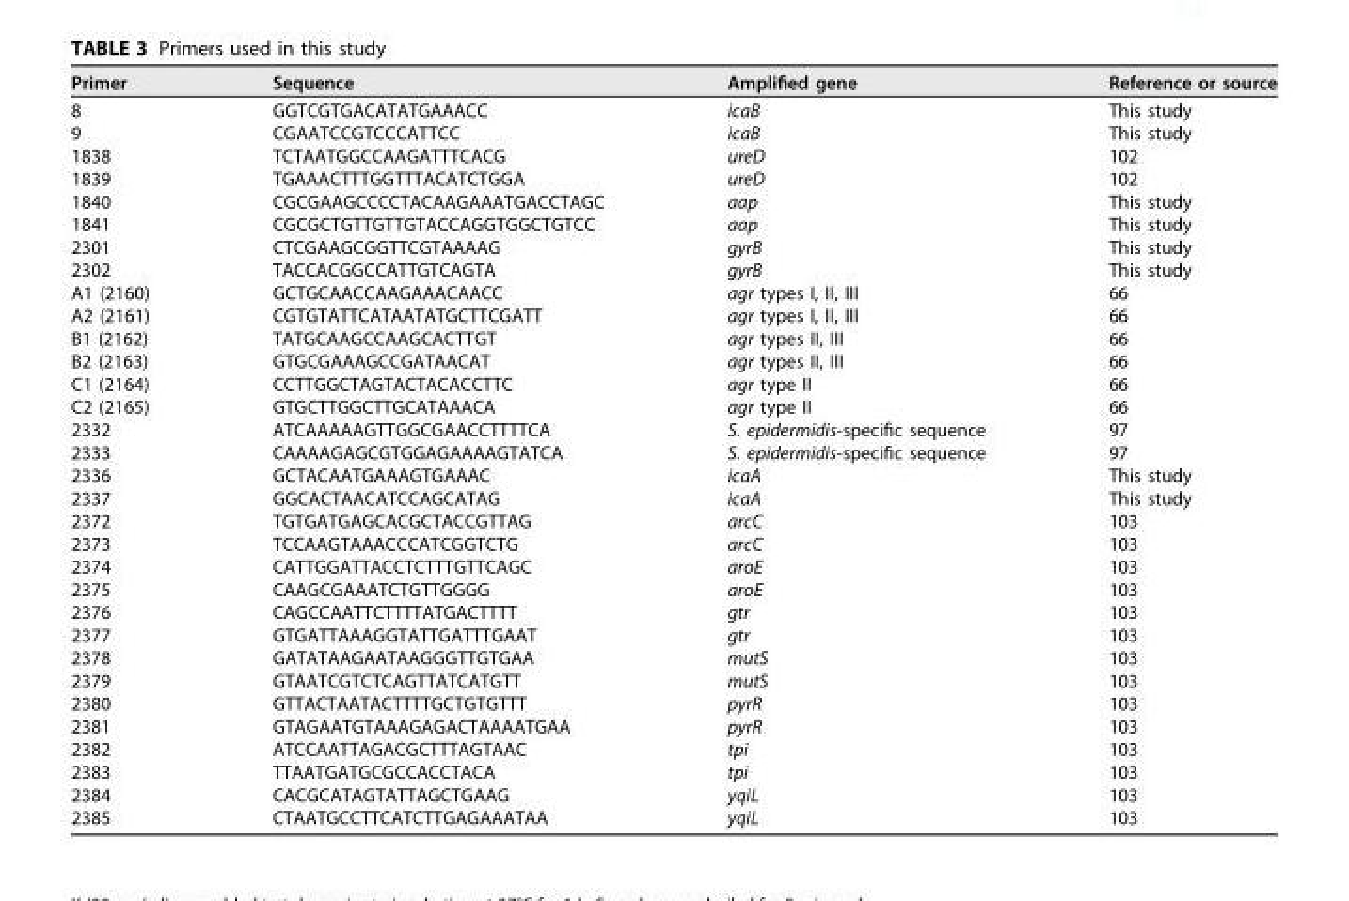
<table><thead><tr><td>Primer</td><td>Sequence</td><td>Amplified gene</td><td>Reference or source</td></tr></thead><tbody><tr><td>8</td><td>GGTCGTGACATATGAAACC</td><td>icaB</td><td>This study</td></tr><tr><td>9</td><td>CGAATCCGTCCCATTCC</td><td>icaB</td><td>This study</td></tr><tr><td>1838</td><td>TCTAATGGCCAAGATTTCACG</td><td>ureD</td><td>102</td></tr><tr><td>1839</td><td>TGAAACTTTGGTTTACATCTGGA</td><td>ureD</td><td>102</td></tr><tr><td>1840</td><td>CGCGAAGCCCCTACAAGAAATGACCTAGC</td><td>aap</td><td>This study</td></tr><tr><td>1841</td><td>CGCGCTGTTGTTGTACCAGGTGGCTGTCC</td><td>aap</td><td>This study</td></tr><tr><td>2301</td><td>CTCGAAGCGGTTCGTAAAAG</td><td>gyrB</td><td>This study</td></tr><tr><td>2302</td><td>TACCACGGCCATTGTCAGTA</td><td>gyrB</td><td>This study</td></tr><tr><td>A1 (2160)</td><td>GCTGCAACCAAGAAACAACC</td><td>agr types I, II, III</td><td>66</td></tr><tr><td>A2 (2161)</td><td>CGTGTATTCATAATATGCTTCGATT</td><td>agr types I, II, III</td><td>66</td></tr><tr><td>B1 (2162)</td><td>TATGCAAGCCAAGCACTTGT</td><td>agr types II, III</td><td>66</td></tr><tr><td>B2 (2163)</td><td>GTGCGAAAGCCGATAACAT</td><td>agr types II, III</td><td>66</td></tr><tr><td>C1 (2164)</td><td>CCTTGGCTAGTACTACACCTTC</td><td>agr type II</td><td>66</td></tr><tr><td>C2 (2165)</td><td>GTGCTTGGCTTGCATAAACA</td><td>agr type II</td><td>66</td></tr><tr><td>2332</td><td>ATCAAAAAGTTGGCGAACCTTTTCA</td><td>S. epidermidis-specific sequence</td><td>97</td></tr><tr><td>2333</td><td>CAAAAGAGCGTGGAGAAAAGTATCA</td><td>S. epidermidis-specific sequence</td><td>97</td></tr><tr><td>2336</td><td>GCTACAATGAAAGTGAAAC</td><td>icaA</td><td>This study</td></tr><tr><td>2337</td><td>GGCACTAACATCCAGCATAG</td><td>icaA</td><td>This study</td></tr><tr><td>2372</td><td>TGTGATGAGCACGCTACCGTTAG</td><td>arcC</td><td>103</td></tr><tr><td>2373</td><td>TCCAAGTAAACCCATCGGTCTG</td><td>arcC</td><td>103</td></tr><tr><td>2374</td><td>CATTGGATTACCTCTTTGTTCAGC</td><td>aroE</td><td>103</td></tr><tr><td>2375</td><td>CAAGCGAAATCTGTTGGGG</td><td>aroE</td><td>103</td></tr><tr><td>2376</td><td>CAGCCAATTCTTTTATGACTTTT</td><td>gtr</td><td>103</td></tr><tr><td>2377</td><td>GTGATTAAAGGTATTGATTTGAAT</td><td>gtr</td><td>103</td></tr><tr><td>2378</td><td>GATATAAGAATAAGGGTTGTGAA</td><td>mutS</td><td>103</td></tr><tr><td>2379</td><td>GTAATCGTCTCAGTTATCATGTT</td><td>mutS</td><td>103</td></tr><tr><td>2380</td><td>GTTACTAATACTTTTGCTGTGTTT</td><td>pyrR</td><td>103</td></tr><tr><td>2381</td><td>GTAGAATGTAAAGAGACTAAAATGAA</td><td>pyrR</td><td>103</td></tr><tr><td>2382</td><td>ATCCAATTAGACGCTTTAGTAAC</td><td>tpi</td><td>103</td></tr><tr><td>2383</td><td>TTAATGATGCGCCACCTACA</td><td>tpi</td><td>103</td></tr><tr><td>2384</td><td>CACGCATAGTATTAGCTGAAG</td><td>yqiL</td><td>103</td></tr><tr><td>2385</td><td>CTAATGCCTTCATCTTGAGAAATAA</td><td>yqiL</td><td>103</td></tr></tbody></table>